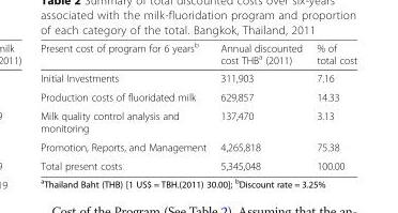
<table><thead><tr><td>Present cost of program for 6 years<sup>b</sup></td><td>Annual discounted cost THB<sup>a</sup> (2011)</td><td>% of total cost</td></tr></thead><tbody><tr><td>Initial Investments</td><td>311,903</td><td>7.16</td></tr><tr><td>Production costs of fluoridated milk</td><td>629,857</td><td>14.33</td></tr><tr><td>Milk quality control analysis and monitoring</td><td>137,470</td><td>3.13</td></tr><tr><td>Promotion, Reports, and Management</td><td>4,265,818</td><td>75.38</td></tr><tr><td>Total present costs</td><td>5,345,048</td><td>100.00</td></tr></tbody></table>